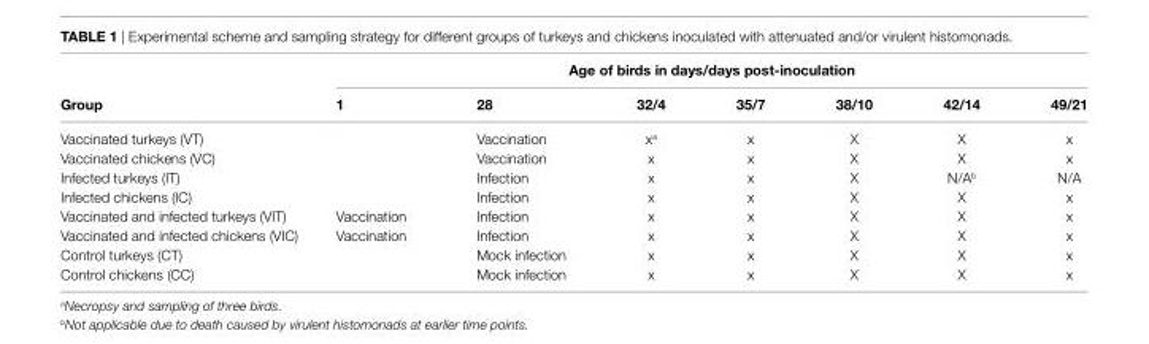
<table><thead><tr><td rowspan="2">group</td><td colspan="7">age of birds in days/days post-inoculation</td></tr><tr><td>1</td><td>28</td><td>32/4</td><td>35/7</td><td>38/10</td><td>42/14</td><td>49/21</td></tr></thead><tbody><tr><td>Vaccinated turkeys (VT)</td><td></td><td>Vaccination</td><td>x<sup>a</sup></td><td>x</td><td>X</td><td>X</td><td>x</td></tr><tr><td>Vaccinated chickens (VC)</td><td></td><td>Vaccination</td><td>x</td><td>x</td><td>X</td><td>X</td><td>x</td></tr><tr><td>Infected turkeys (IT)</td><td></td><td>Infection</td><td>x</td><td>x</td><td>X</td><td>N/A<sup>b</sup></td><td>N/A</td></tr><tr><td>Infected chickens (IC)</td><td></td><td>Infection</td><td>x</td><td>x</td><td>X</td><td>X</td><td>x</td></tr><tr><td>Vaccinated and infected turkeys (VIT)</td><td>Vaccination</td><td>Infection</td><td>x</td><td>x</td><td>X</td><td>X</td><td>x</td></tr><tr><td>Vaccinated and infected chickens (VIC)</td><td>Vaccination</td><td>Infection</td><td>x</td><td>x</td><td>X</td><td>X</td><td>x</td></tr><tr><td>Control turkeys (CT)</td><td rowspan="2"></td><td>Mock infection</td><td>x</td><td>x</td><td>X</td><td>X</td><td>x</td></tr><tr><td>Control chickens (CC)</td><td>Mock infection</td><td>x</td><td>x</td><td>X</td><td>X</td><td>x</td></tr></tbody></table>